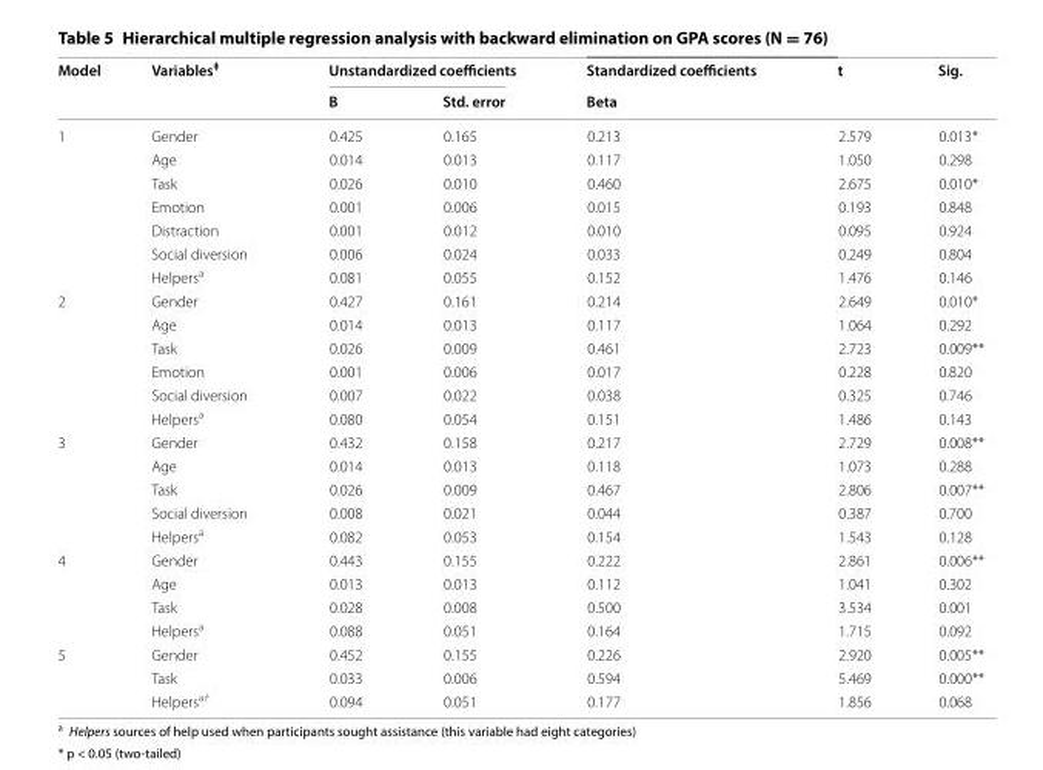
<table><thead><tr><td rowspan="2">Model</td><td rowspan="2">Variables<sup>‡</sup></td><td colspan="2">Unstandardized coefficients</td><td rowspan="2">Standardized coefficients Beta</td><td rowspan="2">t</td><td rowspan="2">Sig.</td></tr><tr><td>B</td><td>Std. error</td></tr></thead><tbody><tr><td rowspan="7">1</td><td>Gender</td><td>0.425</td><td>0.165</td><td>0.213</td><td>2.579</td><td>0.013*</td></tr><tr><td>Age</td><td>0.014</td><td>0.013</td><td>0.117</td><td>1.050</td><td>0.298</td></tr><tr><td>Task</td><td>0.026</td><td>0.010</td><td>0.460</td><td>2.675</td><td>0.010*</td></tr><tr><td>Emotion</td><td>0.001</td><td>0.006</td><td>0.015</td><td>0.193</td><td>0.848</td></tr><tr><td>Distraction</td><td>0.001</td><td>0.012</td><td>0.010</td><td>0.095</td><td>0.924</td></tr><tr><td>Social diversion</td><td>0.006</td><td>0.024</td><td>0.033</td><td>0.249</td><td>0.804</td></tr><tr><td>Helpers<sup>a</sup></td><td>0.081</td><td>0.055</td><td>0.152</td><td>1.476</td><td>0.146</td></tr><tr><td rowspan="6">2</td><td>Gender</td><td>0.427</td><td>0.161</td><td>0.214</td><td>2.649</td><td>0.010*</td></tr><tr><td>Age</td><td>0.014</td><td>0.013</td><td>0.117</td><td>1.064</td><td>0.292</td></tr><tr><td>Task</td><td>0.026</td><td>0.009</td><td>0.461</td><td>2.723</td><td>0.009**</td></tr><tr><td>Emotion</td><td>0.001</td><td>0.006</td><td>0.017</td><td>0.228</td><td>0.820</td></tr><tr><td>Social diversion</td><td>0.007</td><td>0.022</td><td>0.038</td><td>0.325</td><td>0.746</td></tr><tr><td>Helpers<sup>a</sup></td><td>0.080</td><td>0.054</td><td>0.151</td><td>1.486</td><td>0.143</td></tr><tr><td rowspan="5">3</td><td>Gender</td><td>0.432</td><td>0.158</td><td>0.217</td><td>2.729</td><td>0.008**</td></tr><tr><td>Age</td><td>0.014</td><td>0.013</td><td>0.118</td><td>1.073</td><td>0.288</td></tr><tr><td>Task</td><td>0.026</td><td>0.009</td><td>0.467</td><td>2.806</td><td>0.007**</td></tr><tr><td>Social diversion</td><td>0.008</td><td>0.021</td><td>0.044</td><td>0.387</td><td>0.700</td></tr><tr><td>Helpers<sup>a</sup></td><td>0.082</td><td>0.053</td><td>0.154</td><td>1.543</td><td>0.128</td></tr><tr><td rowspan="4">4</td><td>Gender</td><td>0.443</td><td>0.155</td><td>0.222</td><td>2.861</td><td>0.006**</td></tr><tr><td>Age</td><td>0.013</td><td>0.013</td><td>0.112</td><td>1.041</td><td>0.302</td></tr><tr><td>Task</td><td>0.028</td><td>0.008</td><td>0.500</td><td>3.534</td><td>0.001</td></tr><tr><td>Helpers<sup>a</sup></td><td>0.088</td><td>0.051</td><td>0.164</td><td>1.715</td><td>0.092</td></tr><tr><td rowspan="3">5</td><td>Gender</td><td>0.452</td><td>0.155</td><td>0.226</td><td>2.920</td><td>0.005**</td></tr><tr><td>Task</td><td>0.033</td><td>0.006</td><td>0.594</td><td>5.469</td><td>0.000**</td></tr><tr><td>Helpers<sup>a†</sup></td><td>0.094</td><td>0.051</td><td>0.177</td><td>1.856</td><td>0.068</td></tr></tbody></table>